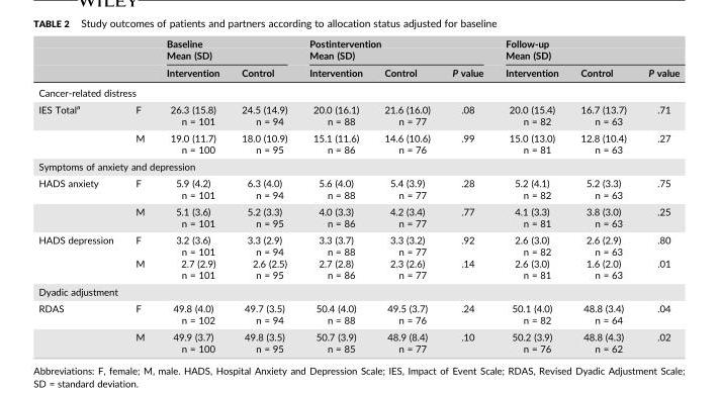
<table><thead><tr><td rowspan="3"></td><td rowspan="3"></td><td rowspan="2" colspan="2">Baseline Mean (SD)</td><td rowspan="2" colspan="3">Postintervention Mean (SD)</td><td rowspan="2" colspan="3">Follow‐up Mean (SD)</td></tr><tr></tr><tr><td>Intervention</td><td>Control</td><td>Intervention</td><td>Control</td><td>P value</td><td>Intervention</td><td>Control</td><td>P value</td></tr></thead><tbody><tr><td colspan="10">Cancer‐related distress</td></tr><tr><td rowspan="2">IES Total<sup>a</sup></td><td>F</td><td>26.3 (15.8) n = 101</td><td>24.5 (14.9) n = 94</td><td>20.0 (16.1) n = 88</td><td>21.6 (16.0) n = 77</td><td>.08</td><td>20.0 (15.4) n = 82</td><td>16.7 (13.7) n = 63</td><td>.71</td></tr><tr><td>M</td><td>19.0 (11.7) n = 100</td><td>18.0 (10.9) n = 95</td><td>15.1 (11.6) n = 86</td><td>14.6 (10.6) n = 76</td><td>.99</td><td>15.0 (13.0) n = 81</td><td>12.8 (10.4) n = 63</td><td>.27</td></tr><tr><td colspan="10">Symptoms of anxiety and depression</td></tr><tr><td rowspan="2">HADS anxiety</td><td>F</td><td>5.9 (4.2) n = 101</td><td>6.3 (4.0) n = 94</td><td>5.6 (4.0) n = 88</td><td>5.4 (3.9) n = 77</td><td>.28</td><td>5.2 (4.1) n = 82</td><td>5.2 (3.3) n = 63</td><td>.75</td></tr><tr><td>M</td><td>5.1 (3.6) n = 101</td><td>5.2 (3.3) n = 95</td><td>4.0 (3.3) n = 86</td><td>4.2 (3.4) n = 77</td><td>.77</td><td>4.1 (3.3) n = 81</td><td>3.8 (3.0) n = 63</td><td>.25</td></tr><tr><td rowspan="2">HADS depression</td><td>F</td><td rowspan="2">3.2 (3.6) n = 101 2.7 (2.9) n = 101</td><td rowspan="2">3.3 (2.9) n = 94 2.6 (2.5) n = 95</td><td>3.3 (3.7) n = 88</td><td>3.3 (3.2) n = 77</td><td>.92</td><td>2.6 (3.0) n = 82</td><td>2.6 (2.9) n = 63</td><td>.80</td></tr><tr><td>M</td><td>2.7 (2.8) n = 86</td><td>2.3 (2.6) n = 77</td><td>.14</td><td>2.6 (3.0) n = 81</td><td>1.6 (2.0) n = 63</td><td>.01</td></tr><tr><td colspan="10">Dyadic adjustment</td></tr><tr><td rowspan="2">RDAS</td><td>F</td><td>49.8 (4.0) n = 102</td><td>49.7 (3.5) n = 94</td><td>50.4 (4.0) n = 88</td><td>49.5 (3.7) n = 76</td><td>.24</td><td>50.1 (4.0) n = 82</td><td>48.8 (3.4) n = 64</td><td>.04</td></tr><tr><td>M</td><td>49.9 (3.7) n = 100</td><td>49.8 (3.5) n = 95</td><td>50.7 (3.9) n = 85</td><td>48.9 (8.4) n = 77</td><td>.10</td><td>50.2 (3.9) n = 76</td><td>48.8 (4.3) n = 62</td><td>.02</td></tr></tbody></table>